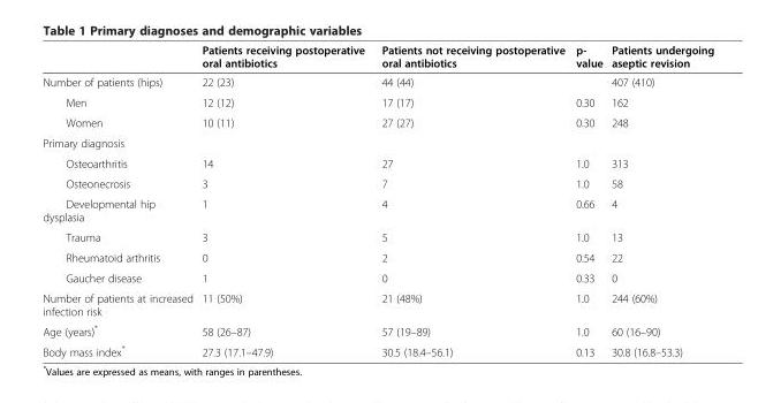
<table><thead><tr><td></td><td>Patients receiving postoperative oral antibiotics</td><td>Patients not receiving postoperative oral antibiotics</td><td>p- value</td><td>Patients undergoing aseptic revision</td></tr></thead><tbody><tr><td>Number of patients (hips)</td><td>22 (23)</td><td>44 (44)</td><td></td><td>407 (410)</td></tr><tr><td>Men</td><td>12 (12)</td><td>17 (17)</td><td>0.30</td><td>162</td></tr><tr><td>Women</td><td>10 (11)</td><td>27 (27)</td><td>0.30</td><td>248</td></tr><tr><td colspan="5">Primary diagnosis</td></tr><tr><td>Osteoarthritis</td><td>14</td><td>27</td><td>1.0</td><td>313</td></tr><tr><td>Osteonecrosis</td><td>3</td><td>7</td><td>1.0</td><td>58</td></tr><tr><td>Developmental hip dysplasia</td><td>1</td><td>4</td><td>0.66</td><td>4</td></tr><tr><td>Trauma</td><td>3</td><td>5</td><td>1.0</td><td>13</td></tr><tr><td>Rheumatoid arthritis</td><td>0</td><td>2</td><td>0.54</td><td>22</td></tr><tr><td>Gaucher disease</td><td>1</td><td>0</td><td>0.33</td><td>0</td></tr><tr><td>Number of patients at increased infection risk</td><td>11 (50%)</td><td>21 (48%)</td><td>1.0</td><td>244 (60%)</td></tr><tr><td>Age (years)*</td><td>58 (26–87)</td><td>57 (19–89)</td><td>1.0</td><td>60 (16–90)</td></tr><tr><td>Body mass index*</td><td>27.3 (17.1–47.9)</td><td>30.5 (18.4–56.1)</td><td>0.13</td><td>30.8 (16.8–53.3)</td></tr></tbody></table>